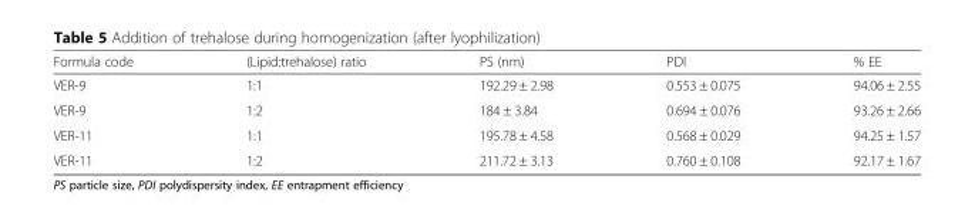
<table><thead><tr><td>Formula code</td><td>(Lipid:trehalose) ratio</td><td>PS (nm)</td><td>PDI</td><td>% EE</td></tr></thead><tbody><tr><td>VER-9</td><td>1:1</td><td>192.29 ± 2.98</td><td>0.553 ± 0.075</td><td>94.06 ± 2.55</td></tr><tr><td>VER-9</td><td>1:2</td><td>184 ± 3.84</td><td>0.694 ± 0.076</td><td>93.26 ± 2.66</td></tr><tr><td>VER-11</td><td>1:1</td><td>195.78 ± 4.58</td><td>0.568 ± 0.029</td><td>94.25 ± 1.57</td></tr><tr><td>VER-11</td><td>1:2</td><td>211.72 ± 3.13</td><td>0.760 ± 0.108</td><td>92.17 ± 1.67</td></tr></tbody></table>